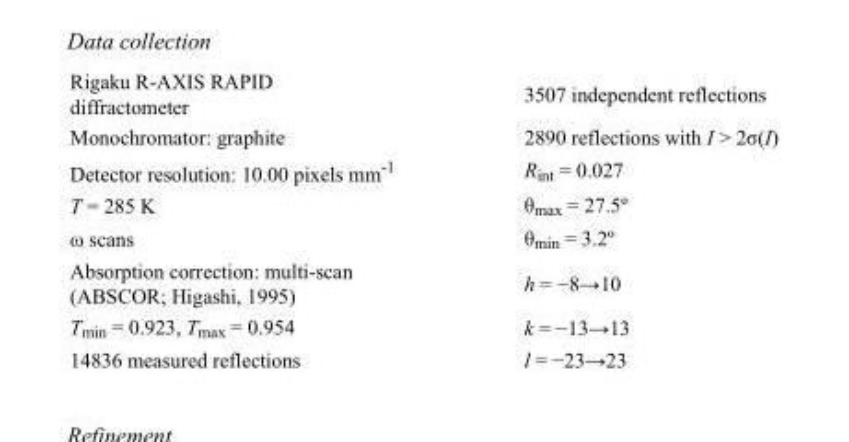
<table><tbody><tr><td>Rigaku R-AXIS RAPID diffractometer</td><td>3507 independent reflections</td></tr><tr><td>Monochromator: graphite</td><td>2890 reflections with I &gt; 2σ(I)</td></tr><tr><td>Detector resolution: 10.00 pixels mm<sup>-1</sup></td><td>R<sub>int</sub> = 0.027</td></tr><tr><td>T = 285 K</td><td>θ<sub>max</sub> = 27.5º</td></tr><tr><td>ω scans</td><td>θ<sub>min</sub> = 3.2º</td></tr><tr><td>Absorption correction: multi-scan (ABSCOR; Higashi, 1995)</td><td>h = −8→10</td></tr><tr><td>T<sub>min</sub> = 0.923, T<sub>max</sub> = 0.954</td><td>k = −13→13</td></tr><tr><td>14836 measured reflections</td><td>l = −23→23</td></tr></tbody></table>